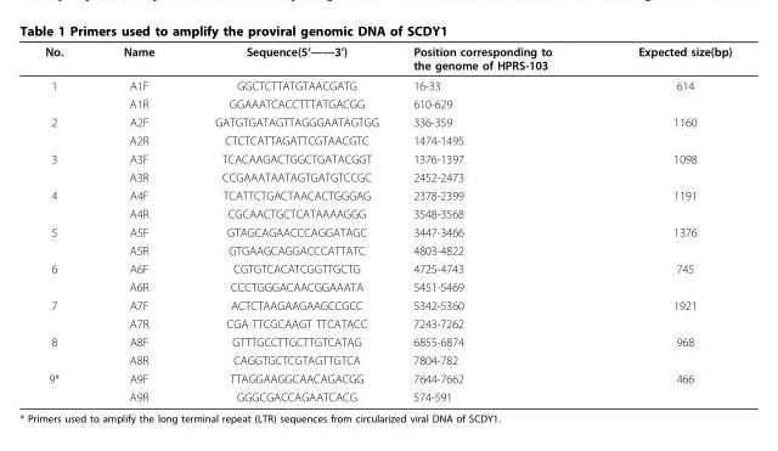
<table><thead><tr><td>No.</td><td>Name</td><td>Sequence(5’——3’)</td><td>Position corresponding to the genome of HPRS-103</td><td>Expected size(bp)</td></tr></thead><tbody><tr><td rowspan="2">1</td><td>A1F</td><td>GGCTCTTATGTAACGATG</td><td>16-33</td><td>614</td></tr><tr><td>A1R</td><td>GGAAATCACCTTTATGACGG</td><td>610-629</td><td></td></tr><tr><td rowspan="2">2</td><td>A2F</td><td>GATGTGATAGTTAGGGAATAGTGG</td><td>336-359</td><td>1160</td></tr><tr><td>A2R</td><td>CTCTCATTAGATTCGTAACGTC</td><td>1474-1495</td><td></td></tr><tr><td rowspan="2">3</td><td>A3F</td><td>TCACAAGACTGGCTGATACGGT</td><td>1376-1397</td><td>1098</td></tr><tr><td>A3R</td><td>CCGAAATAATAGTGATGTCCGC</td><td>2452-2473</td><td></td></tr><tr><td rowspan="2">4</td><td>A4F</td><td>TCATTCTGACTAACACTGGGAG</td><td>2378-2399</td><td>1191</td></tr><tr><td>A4R</td><td>CGCAACTGCTCATAAAAGGG</td><td>3548-3568</td><td></td></tr><tr><td rowspan="2">5</td><td>A5F</td><td>GTAGCAGAACCCAGGATAGC</td><td>3447-3466</td><td>1376</td></tr><tr><td>A5R</td><td>GTGAAGCAGGACCCATTATC</td><td>4803-4822</td><td></td></tr><tr><td rowspan="2">6</td><td>A6F</td><td>CGTGTCACATCGGTTGCTG</td><td>4725-4743</td><td>745</td></tr><tr><td>A6R</td><td>CCCTGGGACAACGGAAATA</td><td>5451-5469</td><td></td></tr><tr><td rowspan="2">7</td><td>A7F</td><td>ACTCTAAGAAGAAGCCGCC</td><td>5342-5360</td><td>1921</td></tr><tr><td>A7R</td><td>CGA TTCGCAAGT TTCATACC</td><td>7243-7262</td><td></td></tr><tr><td rowspan="2">8</td><td>A8F</td><td>GTTTGCCTTGCTTGTCATAG</td><td>6855-6874</td><td>968</td></tr><tr><td>A8R</td><td>CAGGTGCTCGTAGTTGTCA</td><td>7804-782</td><td></td></tr><tr><td rowspan="2">9*</td><td>A9F</td><td>TTAGGAAGGCAACAGACGG</td><td>7644-7662</td><td>466</td></tr><tr><td>A9R</td><td>GGGCGACCAGAATCACG</td><td>574-591</td><td></td></tr></tbody></table>